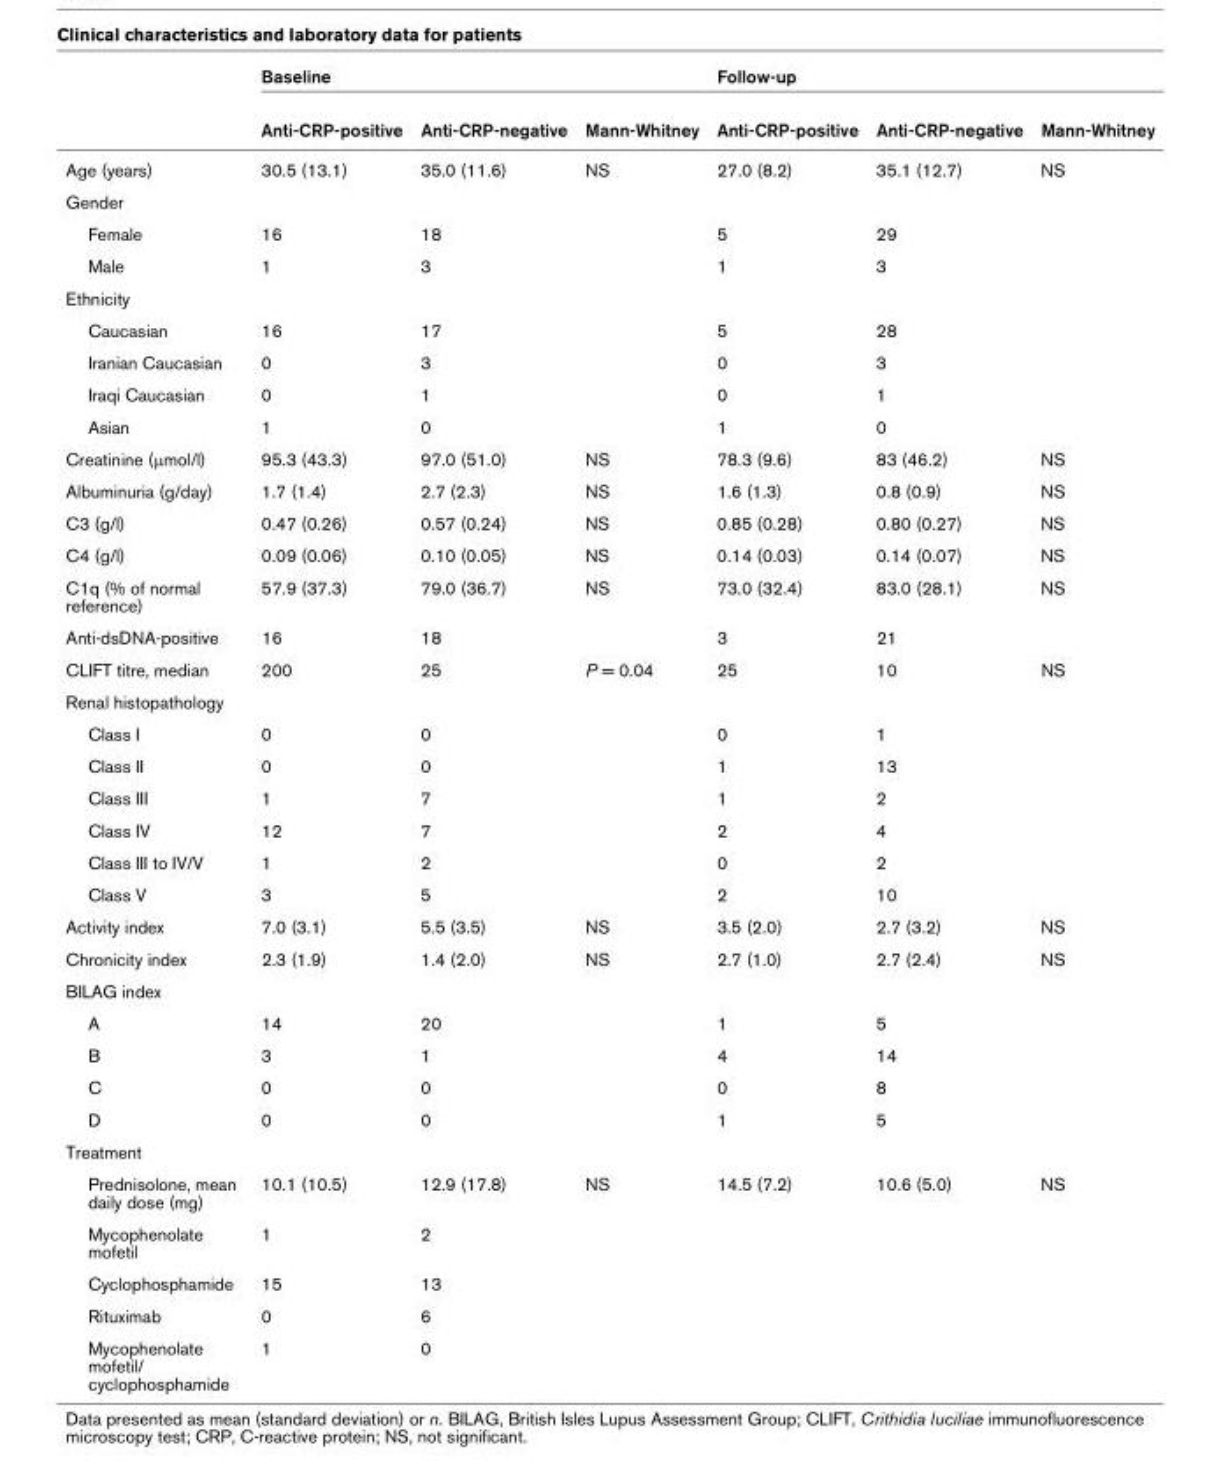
<table><thead><tr><td rowspan="2"></td><td colspan="3">Baseline</td><td colspan="3">Follow-up</td></tr><tr><td>Anti-CRP-positive</td><td>Anti-CRP-negative</td><td>Mann-Whitney</td><td>Anti-CRP-positive</td><td>Anti-CRP-negative</td><td>Mann-Whitney</td></tr></thead><tbody><tr><td>Age (years)</td><td>30.5 (13.1)</td><td>35.0 (11.6)</td><td>NS</td><td>27.0 (8.2)</td><td>35.1 (12.7)</td><td>NS</td></tr><tr><td colspan="7">Gender</td></tr><tr><td>Female</td><td>16</td><td>18</td><td></td><td>5</td><td>29</td><td></td></tr><tr><td>Male</td><td>1</td><td>3</td><td></td><td>1</td><td>3</td><td></td></tr><tr><td colspan="7">Ethnicity</td></tr><tr><td>Caucasian</td><td>16</td><td>17</td><td></td><td>5</td><td>28</td><td></td></tr><tr><td>Iranian Caucasian</td><td>0</td><td>3</td><td></td><td>0</td><td>3</td><td></td></tr><tr><td>Iraqi Caucasian</td><td>0</td><td>1</td><td></td><td>0</td><td>1</td><td></td></tr><tr><td>Asian</td><td>1</td><td>0</td><td></td><td>1</td><td>0</td><td></td></tr><tr><td>Creatinine (μmol/l)</td><td>95.3 (43.3)</td><td>97.0 (51.0)</td><td>NS</td><td>78.3 (9.6)</td><td>83 (46.2)</td><td>NS</td></tr><tr><td>Albuminuria (g/day)</td><td>1.7 (1.4)</td><td>2.7 (2.3)</td><td>NS</td><td>1.6 (1.3)</td><td>0.8 (0.9)</td><td>NS</td></tr><tr><td>C3 (g/l)</td><td>0.47 (0.26)</td><td>0.57 (0.24)</td><td>NS</td><td>0.85 (0.28)</td><td>0.80 (0.27)</td><td>NS</td></tr><tr><td>C4 (g/l)</td><td>0.09 (0.06)</td><td>0.10 (0.05)</td><td>NS</td><td>0.14 (0.03)</td><td>0.14 (0.07)</td><td>NS</td></tr><tr><td>C1q (% of normal reference)</td><td>57.9 (37.3)</td><td>79.0 (36.7)</td><td>NS</td><td>73.0 (32.4)</td><td>83.0 (28.1)</td><td>NS</td></tr><tr><td>Anti-dsDNA-positive</td><td>16</td><td>18</td><td></td><td>3</td><td>21</td><td></td></tr><tr><td>CLIFT titre, median</td><td>200</td><td>25</td><td>P = 0.04</td><td>25</td><td>10</td><td>NS</td></tr><tr><td colspan="7">Renal histopathology</td></tr><tr><td>Class I</td><td>0</td><td>0</td><td></td><td>0</td><td>1</td><td></td></tr><tr><td>Class II</td><td>0</td><td>0</td><td></td><td>1</td><td>13</td><td></td></tr><tr><td>Class III</td><td>1</td><td>7</td><td></td><td>1</td><td>2</td><td></td></tr><tr><td>Class IV</td><td>12</td><td>7</td><td></td><td>2</td><td>4</td><td></td></tr><tr><td>Class III to IV/V</td><td>1</td><td>2</td><td></td><td>0</td><td>2</td><td></td></tr><tr><td>Class V</td><td>3</td><td>5</td><td></td><td>2</td><td>10</td><td></td></tr><tr><td>Activity index</td><td>7.0 (3.1)</td><td>5.5 (3.5)</td><td>NS</td><td>3.5 (2.0)</td><td>2.7 (3.2)</td><td>NS</td></tr><tr><td>Chronicity index</td><td>2.3 (1.9)</td><td>1.4 (2.0)</td><td>NS</td><td>2.7 (1.0)</td><td>2.7 (2.4)</td><td>NS</td></tr><tr><td colspan="7">BILAG index</td></tr><tr><td>A</td><td>14</td><td>20</td><td></td><td>1</td><td>5</td><td></td></tr><tr><td>B</td><td>3</td><td>1</td><td></td><td>4</td><td>14</td><td></td></tr><tr><td>C</td><td>0</td><td>0</td><td></td><td>0</td><td>8</td><td></td></tr><tr><td>D</td><td>0</td><td>0</td><td></td><td>1</td><td>5</td><td></td></tr><tr><td colspan="7">Treatment</td></tr><tr><td>Prednisolone, mean daily dose (mg)</td><td>10.1 (10.5)</td><td>12.9 (17.8)</td><td>NS</td><td>14.5 (7.2)</td><td>10.6 (5.0)</td><td>NS</td></tr><tr><td>Mycophenolate mofetil</td><td>1</td><td>2</td><td></td><td></td><td></td><td></td></tr><tr><td>Cyclophosphamide</td><td>15</td><td>13</td><td></td><td></td><td></td><td></td></tr><tr><td>Rituximab</td><td>0</td><td>6</td><td></td><td></td><td></td><td></td></tr><tr><td>Mycophenolate mofetil/ cyclophosphamide</td><td>1</td><td>0</td><td></td><td></td><td></td><td></td></tr></tbody></table>